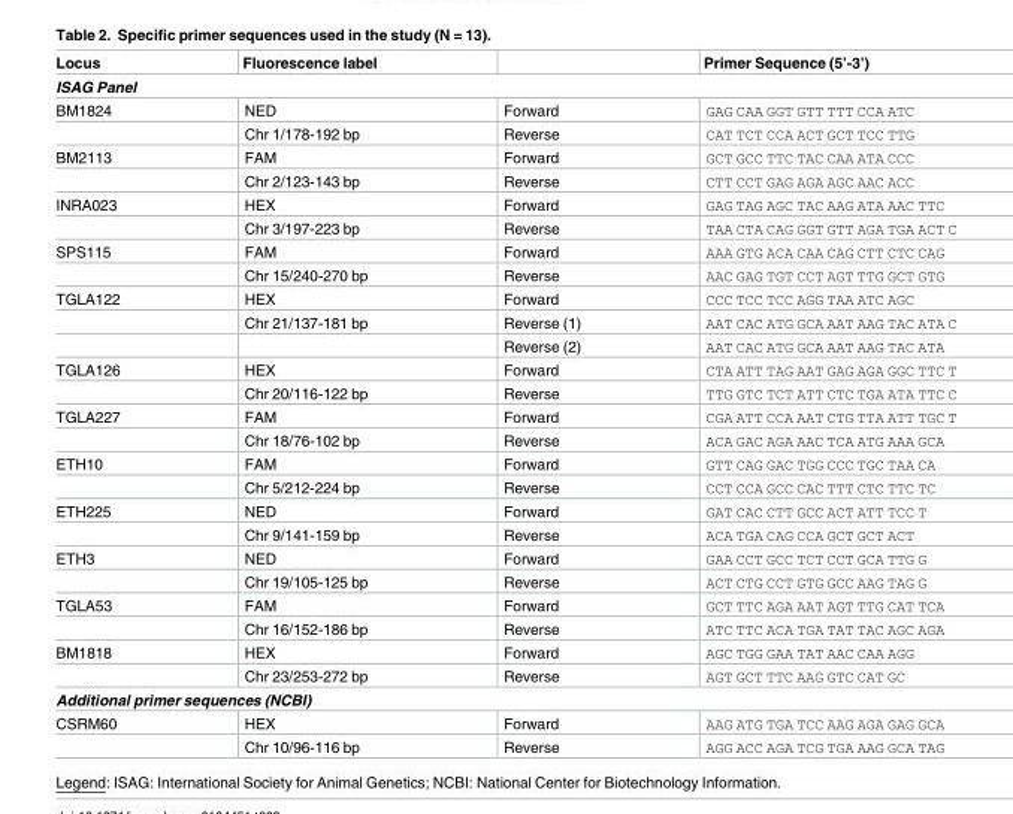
<table><thead><tr><td>Locus</td><td>Fluorescence label</td><td></td><td>Primer Sequence (5’-3’)</td></tr></thead><tbody><tr><td colspan="4">ISAG Panel</td></tr><tr><td rowspan="2">BM1824</td><td>NED</td><td>Forward</td><td>GAG CAA GGT GTT TTT CCA ATC</td></tr><tr><td>Chr 1/178-192 bp</td><td>Reverse</td><td>CAT TCT CCA ACT GCT TCC TTG</td></tr><tr><td rowspan="2">BM2113</td><td>FAM</td><td>Forward</td><td>GCT GCC TTC TAC CAA ATA CCC</td></tr><tr><td>Chr 2/123-143 bp</td><td>Reverse</td><td>CTT CCT GAG AGA AGC AAC ACC</td></tr><tr><td rowspan="2">INRA023</td><td>HEX</td><td>Forward</td><td>GAG TAG AGC TAC AAG ATA AAC TTC</td></tr><tr><td>Chr 3/197-223 bp</td><td>Reverse</td><td>TAA CTA CAG GGT GTT AGA TGA ACT C</td></tr><tr><td rowspan="2">SPS115</td><td>FAM</td><td>Forward</td><td>AAA GTG ACA CAA CAG CTT CTC CAG</td></tr><tr><td>Chr 15/240-270 bp</td><td>Reverse</td><td>AAC GAG TGT CCT AGT TTG GCT GTG</td></tr><tr><td rowspan="3">TGLA122</td><td>HEX</td><td>Forward</td><td>CCC TCC TCC AGG TAA ATC AGC</td></tr><tr><td>Chr 21/137-181 bp</td><td>Reverse (1)</td><td>AAT CAC ATG GCA AAT AAG TAC ATA C</td></tr><tr><td></td><td>Reverse (2)</td><td>AAT CAC ATG GCA AAT AAG TAC ATA</td></tr><tr><td rowspan="2">TGLA126</td><td>HEX</td><td>Forward</td><td>CTA ATT TAG AAT GAG AGA GGC TTC T</td></tr><tr><td>Chr 20/116-122 bp</td><td>Reverse</td><td>TTG GTC TCT ATT CTC TGA ATA TTC C</td></tr><tr><td rowspan="2">TGLA227</td><td>FAM</td><td>Forward</td><td>CGA ATT CCA AAT CTG TTA ATT TGC T</td></tr><tr><td>Chr 18/76-102 bp</td><td>Reverse</td><td>ACA GAC AGA AAC TCA ATG AAA GCA</td></tr><tr><td rowspan="2">ETH10</td><td>FAM</td><td>Forward</td><td>GTT CAG GAC TGG CCC TGC TAA CA</td></tr><tr><td>Chr 5/212-224 bp</td><td>Reverse</td><td>CCT CCA GCC CAC TTT CTC TTC TC</td></tr><tr><td rowspan="2">ETH225</td><td>NED</td><td>Forward</td><td>GAT CAC CTT GCC ACT ATT TCC T</td></tr><tr><td>Chr 9/141-159 bp</td><td>Reverse</td><td>ACA TGA CAG CCA GCT GCT ACT</td></tr><tr><td rowspan="2">ETH3</td><td>NED</td><td>Forward</td><td>GAA CCT GCC TCT CCT GCA TTG G</td></tr><tr><td>Chr 19/105-125 bp</td><td>Reverse</td><td>ACT CTG CCT GTG GCC AAG TAG G</td></tr><tr><td rowspan="2">TGLA53</td><td>FAM</td><td>Forward</td><td>GCT TTC AGA AAT AGT TTG CAT TCA</td></tr><tr><td>Chr 16/152-186 bp</td><td>Reverse</td><td>ATC TTC ACA TGA TAT TAC AGC AGA</td></tr><tr><td rowspan="2">BM1818</td><td>HEX</td><td>Forward</td><td>AGC TGG GAA TAT AAC CAA AGG</td></tr><tr><td>Chr 23/253-272 bp</td><td>Reverse</td><td>AGT GCT TTC AAG GTC CAT GC</td></tr><tr><td colspan="4">Additional primer sequences (NCBI)</td></tr><tr><td rowspan="2">CSRM60</td><td>HEX</td><td>Forward</td><td>AAG ATG TGA TCC AAG AGA GAG GCA</td></tr><tr><td>Chr 10/96-116 bp</td><td>Reverse</td><td>AGG ACC AGA TCG TGA AAG GCA TAG</td></tr></tbody></table>